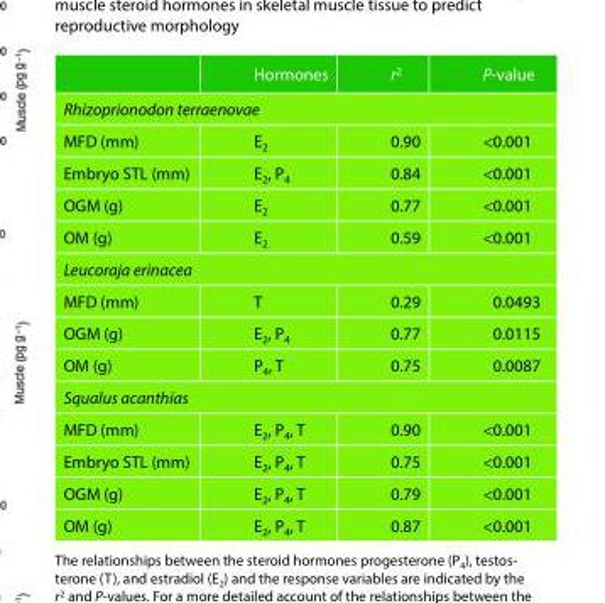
<table><thead><tr><td></td><td>Hormones</td><td>r<sup>2</sup></td><td>P-value</td></tr></thead><tbody><tr><td colspan="4">Rhizoprionodon terraenovae</td></tr><tr><td>MFD (mm)</td><td>E<sub>2</sub></td><td>0.90</td><td>&lt;0.001</td></tr><tr><td>Embryo STL (mm)</td><td>E<sub>2</sub>, P<sub>4</sub></td><td>0.84</td><td>&lt;0.001</td></tr><tr><td>OGM (g)</td><td>E<sub>2</sub></td><td>0.77</td><td>&lt;0.001</td></tr><tr><td>OM (g)</td><td>E<sub>2</sub></td><td>0.59</td><td>&lt;0.001</td></tr><tr><td colspan="4">Leucoraja erinacea</td></tr><tr><td>MFD (mm)</td><td>T</td><td>0.29</td><td>0.0493</td></tr><tr><td>OGM (g)</td><td>E<sub>2</sub>, P<sub>4</sub></td><td>0.77</td><td>0.0115</td></tr><tr><td>OM (g)</td><td>P<sub>4</sub>, T</td><td>0.75</td><td>0.0087</td></tr><tr><td colspan="4">Squalus acanthias</td></tr><tr><td>MFD (mm)</td><td>E<sub>2</sub>, P<sub>4</sub>, T</td><td>0.90</td><td>&lt;0.001</td></tr><tr><td>Embryo STL (mm)</td><td>E<sub>2</sub>, P<sub>4</sub>, T</td><td>0.75</td><td>&lt;0.001</td></tr><tr><td>OGM (g)</td><td>E<sub>2</sub>, P<sub>4</sub>, T</td><td>0.79</td><td>&lt;0.001</td></tr><tr><td>OM (g)</td><td>E<sub>2</sub>, P<sub>4</sub>, T</td><td>0.87</td><td>&lt;0.001</td></tr></tbody></table>